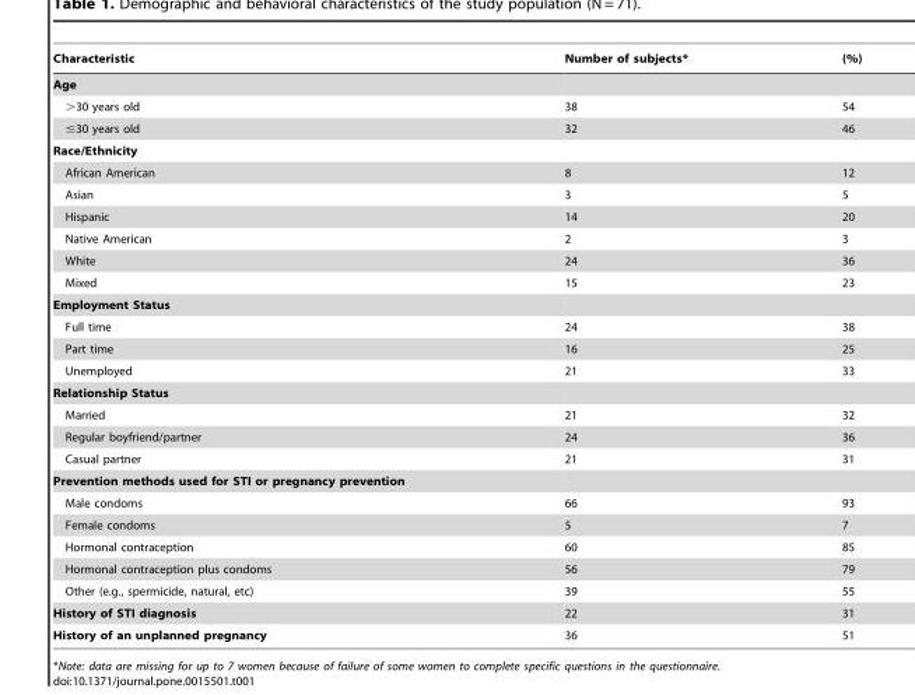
<table><thead><tr><td>Characteristic</td><td>Number of subjects*</td><td>(%)</td></tr></thead><tbody><tr><td colspan="3">Age</td></tr><tr><td>&gt;30 years old</td><td>38</td><td>54</td></tr><tr><td>≤30 years old</td><td>32</td><td>46</td></tr><tr><td colspan="3">Race/Ethnicity</td></tr><tr><td>African American</td><td>8</td><td>12</td></tr><tr><td>Asian</td><td>3</td><td>5</td></tr><tr><td>Hispanic</td><td>14</td><td>20</td></tr><tr><td>Native American</td><td>2</td><td>3</td></tr><tr><td>White</td><td>24</td><td>36</td></tr><tr><td>Mixed</td><td>15</td><td>23</td></tr><tr><td colspan="3">Employment Status</td></tr><tr><td>Full time</td><td>24</td><td>38</td></tr><tr><td>Part time</td><td>16</td><td>25</td></tr><tr><td>Unemployed</td><td>21</td><td>33</td></tr><tr><td colspan="3">Relationship Status</td></tr><tr><td>Married</td><td>21</td><td>32</td></tr><tr><td>Regular boyfriend/partner</td><td>24</td><td>36</td></tr><tr><td>Casual partner</td><td>21</td><td>31</td></tr><tr><td colspan="3">Prevention methods used for STI or pregnancy prevention</td></tr><tr><td>Male condoms</td><td>66</td><td>93</td></tr><tr><td>Female condoms</td><td>5</td><td>7</td></tr><tr><td>Hormonal contraception</td><td>60</td><td>85</td></tr><tr><td>Hormonal contraception plus condoms</td><td>56</td><td>79</td></tr><tr><td>Other (e.g., spermicide, natural, etc)</td><td>39</td><td>55</td></tr><tr><td>History of STI diagnosis</td><td>22</td><td>31</td></tr><tr><td>History of an unplanned pregnancy</td><td>36</td><td>51</td></tr></tbody></table>